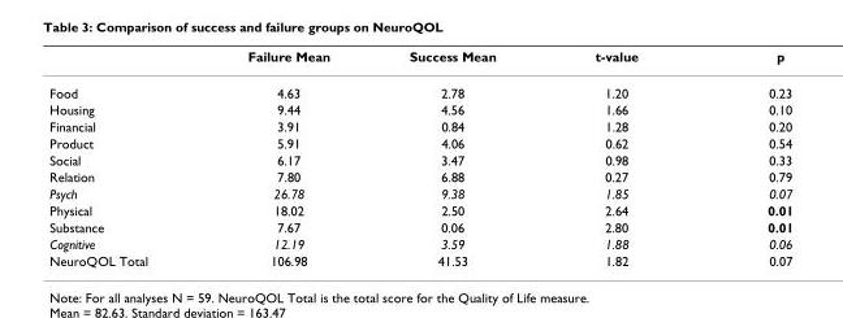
<table><thead><tr><td></td><td>Failure Mean</td><td>Success Mean</td><td>t-value</td><td>p</td></tr></thead><tbody><tr><td>Food</td><td>4.63</td><td>2.78</td><td>1.20</td><td>0.23</td></tr><tr><td>Housing</td><td>9.44</td><td>4.56</td><td>1.66</td><td>0.10</td></tr><tr><td>Financial</td><td>3.91</td><td>0.84</td><td>1.28</td><td>0.20</td></tr><tr><td>Product</td><td>5.91</td><td>4.06</td><td>0.62</td><td>0.54</td></tr><tr><td>Social</td><td>6.17</td><td>3.47</td><td>0.98</td><td>0.33</td></tr><tr><td>Relation</td><td>7.80</td><td>6.88</td><td>0.27</td><td>0.79</td></tr><tr><td>Psych</td><td>26.78</td><td>9.38</td><td>1.85</td><td>0.07</td></tr><tr><td>Physical</td><td>18.02</td><td>2.50</td><td>2.64</td><td>0.01</td></tr><tr><td>Substance</td><td>7.67</td><td>0.06</td><td>2.80</td><td>0.01</td></tr><tr><td>Cognitive</td><td>12.19</td><td>3.59</td><td>1.88</td><td>0.06</td></tr><tr><td>NeuroQOL Total</td><td>106.98</td><td>41.53</td><td>1.82</td><td>0.07</td></tr></tbody></table>